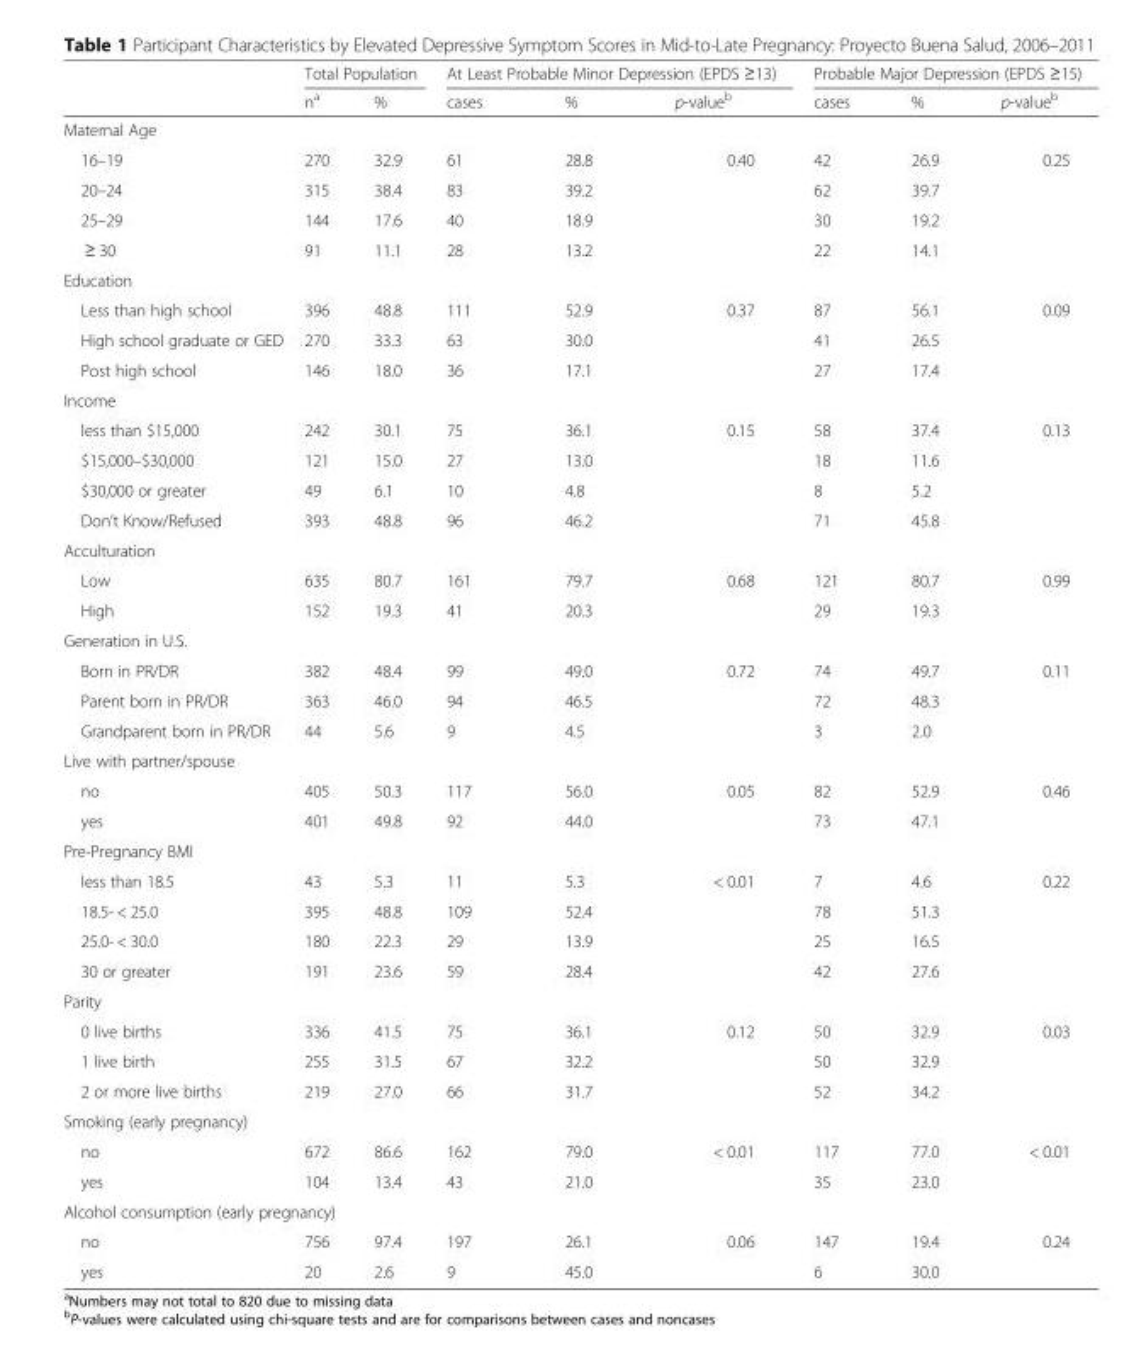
<table><thead><tr><td rowspan="2"></td><td colspan="2">Total Population</td><td colspan="3">At Least Probable Minor Depression (EPDS ≥13)</td><td colspan="3">Probable Major Depression (EPDS ≥15)</td></tr><tr><td>n<sup>a</sup></td><td>%</td><td>cases</td><td>%</td><td>p-value<sup>b</sup></td><td>cases</td><td>%</td><td>p-value<sup>b</sup></td></tr></thead><tbody><tr><td colspan="9">Maternal Age</td></tr><tr><td>16–19</td><td>270</td><td>32.9</td><td>61</td><td>28.8</td><td>0.40</td><td>42</td><td>26.9</td><td>0.25</td></tr><tr><td>20–24</td><td>315</td><td>38.4</td><td>83</td><td>39.2</td><td></td><td>62</td><td>39.7</td><td></td></tr><tr><td>25–29</td><td>144</td><td>17.6</td><td>40</td><td>18.9</td><td></td><td>30</td><td>19.2</td><td></td></tr><tr><td>≥ 30</td><td>91</td><td>11.1</td><td>28</td><td>13.2</td><td></td><td>22</td><td>14.1</td><td></td></tr><tr><td colspan="9">Education</td></tr><tr><td>Less than high school</td><td>396</td><td>48.8</td><td>111</td><td>52.9</td><td>0.37</td><td>87</td><td>56.1</td><td>0.09</td></tr><tr><td>High school graduate or GED</td><td>270</td><td>33.3</td><td>63</td><td>30.0</td><td></td><td>41</td><td>26.5</td><td></td></tr><tr><td>Post high school</td><td>146</td><td>18.0</td><td>36</td><td>17.1</td><td></td><td>27</td><td>17.4</td><td></td></tr><tr><td colspan="9">Income</td></tr><tr><td>less than $15,000</td><td>242</td><td>30.1</td><td>75</td><td>36.1</td><td>0.15</td><td>58</td><td>37.4</td><td>0.13</td></tr><tr><td>$15,000–$30,000</td><td>121</td><td>15.0</td><td>27</td><td>13.0</td><td></td><td>18</td><td>11.6</td><td></td></tr><tr><td>$30,000 or greater</td><td>49</td><td>6.1</td><td>10</td><td>4.8</td><td></td><td>8</td><td>5.2</td><td></td></tr><tr><td>Don’t Know/Refused</td><td>393</td><td>48.8</td><td>96</td><td>46.2</td><td></td><td>71</td><td>45.8</td><td></td></tr><tr><td colspan="9">Acculturation</td></tr><tr><td>Low</td><td>635</td><td>80.7</td><td>161</td><td>79.7</td><td>0.68</td><td>121</td><td>80.7</td><td>0.99</td></tr><tr><td>High</td><td>152</td><td>19.3</td><td>41</td><td>20.3</td><td></td><td>29</td><td>19.3</td><td></td></tr><tr><td colspan="9">Generation in U.S.</td></tr><tr><td>Born in PR/DR</td><td>382</td><td>48.4</td><td>99</td><td>49.0</td><td>0.72</td><td>74</td><td>49.7</td><td>0.11</td></tr><tr><td>Parent born in PR/DR</td><td>363</td><td>46.0</td><td>94</td><td>46.5</td><td></td><td>72</td><td>48.3</td><td></td></tr><tr><td>Grandparent born in PR/DR</td><td>44</td><td>5.6</td><td>9</td><td>4.5</td><td></td><td>3</td><td>2.0</td><td></td></tr><tr><td colspan="9">Live with partner/spouse</td></tr><tr><td>no</td><td>405</td><td>50.3</td><td>117</td><td>56.0</td><td>0.05</td><td>82</td><td>52.9</td><td>0.46</td></tr><tr><td>yes</td><td>401</td><td>49.8</td><td>92</td><td>44.0</td><td></td><td>73</td><td>47.1</td><td></td></tr><tr><td colspan="9">Pre-Pregnancy BMI</td></tr><tr><td>less than 18.5</td><td>43</td><td>5.3</td><td>11</td><td>5.3</td><td>&lt; 0.01</td><td>7</td><td>4.6</td><td>0.22</td></tr><tr><td>18.5- &lt; 25.0</td><td>395</td><td>48.8</td><td>109</td><td>52.4</td><td></td><td>78</td><td>51.3</td><td></td></tr><tr><td>25.0- &lt; 30.0</td><td>180</td><td>22.3</td><td>29</td><td>13.9</td><td></td><td>25</td><td>16.5</td><td></td></tr><tr><td>30 or greater</td><td>191</td><td>23.6</td><td>59</td><td>28.4</td><td></td><td>42</td><td>27.6</td><td></td></tr><tr><td colspan="9">Parity</td></tr><tr><td>0 live births</td><td>336</td><td>41.5</td><td>75</td><td>36.1</td><td>0.12</td><td>50</td><td>32.9</td><td>0.03</td></tr><tr><td>1 live birth</td><td>255</td><td>31.5</td><td>67</td><td>32.2</td><td></td><td>50</td><td>32.9</td><td></td></tr><tr><td>2 or more live births</td><td>219</td><td>27.0</td><td>66</td><td>31.7</td><td></td><td>52</td><td>34.2</td><td></td></tr><tr><td colspan="9">Smoking (early pregnancy)</td></tr><tr><td>no</td><td>672</td><td>86.6</td><td>162</td><td>79.0</td><td>&lt; 0.01</td><td>117</td><td>77.0</td><td>&lt; 0.01</td></tr><tr><td>yes</td><td>104</td><td>13.4</td><td>43</td><td>21.0</td><td></td><td>35</td><td>23.0</td><td></td></tr><tr><td colspan="9">Alcohol consumption (early pregnancy)</td></tr><tr><td>no</td><td>756</td><td>97.4</td><td>197</td><td>26.1</td><td>0.06</td><td>147</td><td>19.4</td><td>0.24</td></tr><tr><td>yes</td><td>20</td><td>2.6</td><td>9</td><td>45.0</td><td></td><td>6</td><td>30.0</td><td></td></tr></tbody></table>